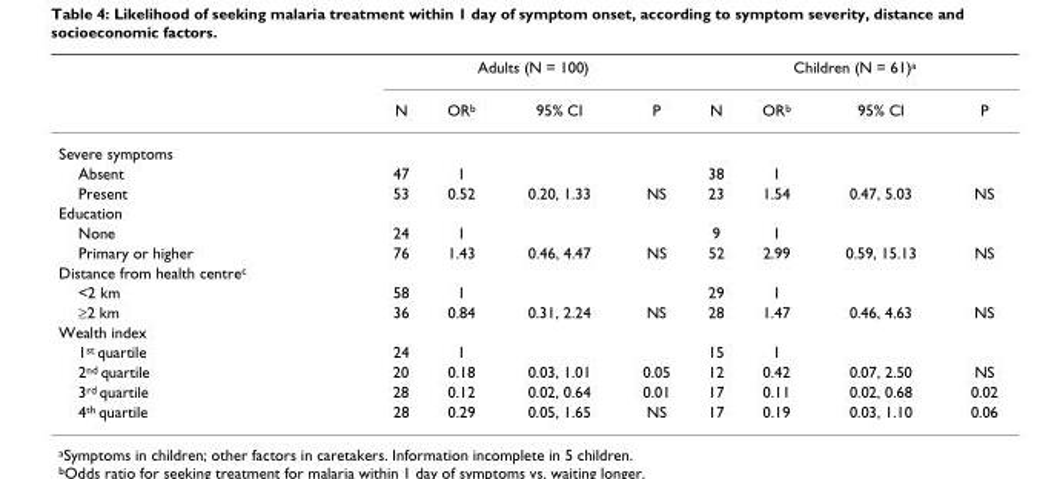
<table><thead><tr><td rowspan="2"></td><td colspan="4">Adults (N = 100)</td><td colspan="4">Children (N = 61)<sup>a</sup></td></tr><tr><td>N</td><td>OR<sup>b</sup></td><td>95% CI</td><td>P</td><td>N</td><td>OR<sup>b</sup></td><td>95% CI</td><td>P</td></tr></thead><tbody><tr><td colspan="9">Severe symptoms</td></tr><tr><td>Absent</td><td>47</td><td>1</td><td></td><td></td><td>38</td><td>1</td><td></td><td></td></tr><tr><td>Present</td><td>53</td><td>0.52</td><td>0.20, 1.33</td><td>NS</td><td>23</td><td>1.54</td><td>0.47, 5.03</td><td>NS</td></tr><tr><td colspan="9">Education</td></tr><tr><td>None</td><td>24</td><td>1</td><td></td><td></td><td>9</td><td>1</td><td></td><td></td></tr><tr><td>Primary or higher</td><td>76</td><td>1.43</td><td>0.46, 4.47</td><td>NS</td><td>52</td><td>2.99</td><td>0.59, 15.13</td><td>NS</td></tr><tr><td colspan="9">Distance from health centre<sup>c</sup></td></tr><tr><td>&lt;2 km</td><td>58</td><td>1</td><td></td><td></td><td>29</td><td>1</td><td></td><td></td></tr><tr><td>≥2 km</td><td>36</td><td>0.84</td><td>0.31, 2.24</td><td>NS</td><td>28</td><td>1.47</td><td>0.46, 4.63</td><td>NS</td></tr><tr><td colspan="9">Wealth index</td></tr><tr><td>1<sup>st</sup> quartile</td><td>24</td><td>1</td><td></td><td></td><td>15</td><td>1</td><td></td><td></td></tr><tr><td>2<sup>nd</sup> quartile</td><td>20</td><td>0.18</td><td>0.03, 1.01</td><td>0.05</td><td>12</td><td>0.42</td><td>0.07, 2.50</td><td>NS</td></tr><tr><td>3<sup>rd</sup> quartile</td><td>28</td><td>0.12</td><td>0.02, 0.64</td><td>0.01</td><td>17</td><td>0.11</td><td>0.02, 0.68</td><td>0.02</td></tr><tr><td>4<sup>th</sup> quartile</td><td>28</td><td>0.29</td><td>0.05, 1.65</td><td>NS</td><td>17</td><td>0.19</td><td>0.03, 1.10</td><td>0.06</td></tr></tbody></table>